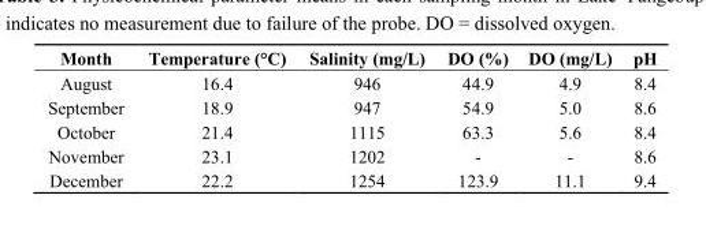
<table><thead><tr><td>Month</td><td>Temperature (°C)</td><td>Salinity (mg/L)</td><td>DO (%)</td><td>DO (mg/L)</td><td>pH</td></tr></thead><tbody><tr><td>August</td><td>16.4</td><td>946</td><td>44.9</td><td>4.9</td><td>8.4</td></tr><tr><td>September</td><td>18.9</td><td>947</td><td>54.9</td><td>5.0</td><td>8.6</td></tr><tr><td>October</td><td>21.4</td><td>1115</td><td>63.3</td><td>5.6</td><td>8.4</td></tr><tr><td>November</td><td>23.1</td><td>1202</td><td>-</td><td>-</td><td>8.6</td></tr><tr><td>December</td><td>22.2</td><td>1254</td><td>123.9</td><td>11.1</td><td>9.4</td></tr></tbody></table>